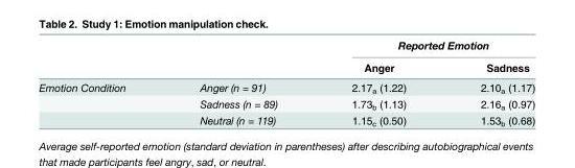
<table><thead><tr><td rowspan="2"></td><td rowspan="2"></td><td colspan="2">Reported Emotion</td></tr><tr><td>Anger</td><td>Sadness</td></tr></thead><tbody><tr><td rowspan="3">Emotion Condition</td><td>Anger (n = 91)</td><td>2.17<sub>a</sub> (1.22)</td><td>2.10<sub>a</sub> (1.17)</td></tr><tr><td>Sadness (n = 89)</td><td>1.73<sub>b</sub> (1.13)</td><td>2.16<sub>a</sub> (0.97)</td></tr><tr><td>Neutral (n = 119)</td><td>1.15<sub>c</sub> (0.50)</td><td>1.53<sub>b</sub> (0.68)</td></tr></tbody></table>